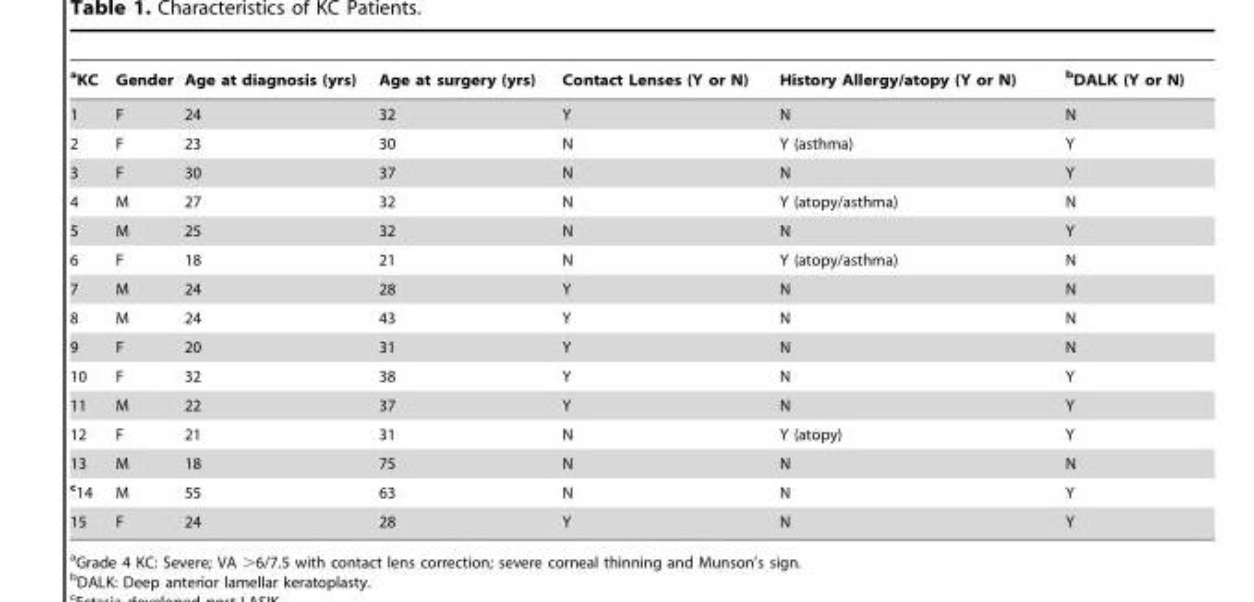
<table><thead><tr><td>aKC</td><td>Gender</td><td>Age at diagnosis (yrs)</td><td>Age at surgery (yrs)</td><td>Contact Lenses (Y or N)</td><td>History Allergy/atopy (Y or N)</td><td>bDALK (Y or N)</td></tr></thead><tbody><tr><td>1</td><td>F</td><td>24</td><td>32</td><td>Y</td><td>N</td><td>N</td></tr><tr><td>2</td><td>F</td><td>23</td><td>30</td><td>N</td><td>Y (asthma)</td><td>Y</td></tr><tr><td>3</td><td>F</td><td>30</td><td>37</td><td>N</td><td>N</td><td>Y</td></tr><tr><td>4</td><td>M</td><td>27</td><td>32</td><td>N</td><td>Y (atopy/asthma)</td><td>N</td></tr><tr><td>5</td><td>M</td><td>25</td><td>32</td><td>N</td><td>N</td><td>Y</td></tr><tr><td>6</td><td>F</td><td>18</td><td>21</td><td>N</td><td>Y (atopy/asthma)</td><td>N</td></tr><tr><td>7</td><td>M</td><td>24</td><td>28</td><td>Y</td><td>N</td><td>N</td></tr><tr><td>8</td><td>M</td><td>24</td><td>43</td><td>Y</td><td>N</td><td>N</td></tr><tr><td>9</td><td>F</td><td>20</td><td>31</td><td>Y</td><td>N</td><td>N</td></tr><tr><td>10</td><td>F</td><td>32</td><td>38</td><td>Y</td><td>N</td><td>Y</td></tr><tr><td>11</td><td>M</td><td>22</td><td>37</td><td>Y</td><td>N</td><td>Y</td></tr><tr><td>12</td><td>F</td><td>21</td><td>31</td><td>N</td><td>Y (atopy)</td><td>Y</td></tr><tr><td>13</td><td>M</td><td>18</td><td>75</td><td>N</td><td>N</td><td>N</td></tr><tr><td>c14</td><td>M</td><td>55</td><td>63</td><td>N</td><td>N</td><td>Y</td></tr><tr><td>15</td><td>F</td><td>24</td><td>28</td><td>Y</td><td>N</td><td>Y</td></tr></tbody></table>